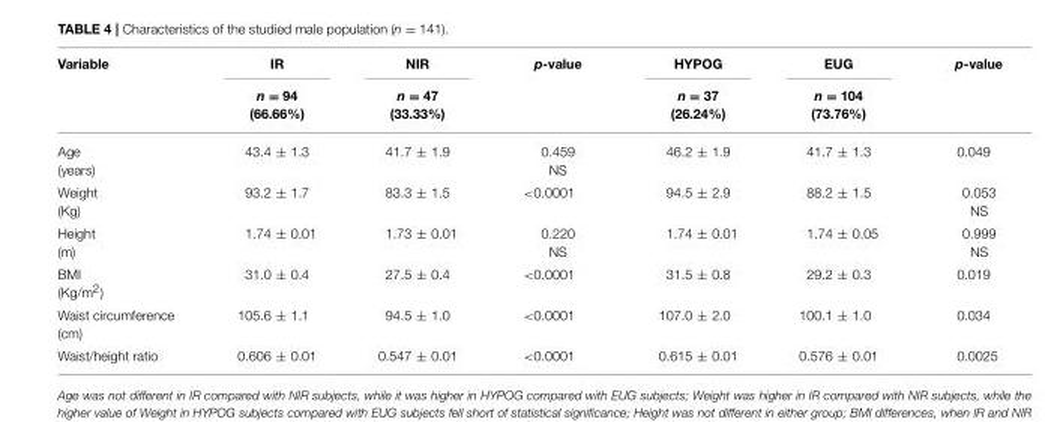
<table><thead><tr><td rowspan="2">Variable</td><td rowspan="2">IR n = 94 (66.66%)</td><td rowspan="2">NIR n = 47 (33.33%)</td><td rowspan="2">p-value</td><td rowspan="2">HYPOG n = 37 (26.24%)</td><td rowspan="2">EUG n = 104 (73.76%)</td><td rowspan="2">p-value</td></tr><tr></tr></thead><tbody><tr><td>Age (years)</td><td>43.4 ± 1.3</td><td>41.7 ± 1.9</td><td>0.459 NS</td><td>46.2 ± 1.9</td><td>41.7 ± 1.3</td><td>0.049</td></tr><tr><td>Weight (Kg)</td><td>93.2 ± 1.7</td><td>83.3 ± 1.5</td><td>&lt;0.0001</td><td>94.5 ± 2.9</td><td>88.2 ± 1.5</td><td>0.053 NS</td></tr><tr><td>Height (m)</td><td>1.74 ± 0.01</td><td>1.73 ± 0.01</td><td>0.220 NS</td><td>1.74 ± 0.01</td><td>1.74 ± 0.05</td><td>0.999 NS</td></tr><tr><td>BMI (Kg/m<sup>2</sup>)</td><td>31.0 ± 0.4</td><td>27.5 ± 0.4</td><td>&lt;0.0001</td><td>31.5 ± 0.8</td><td>29.2 ± 0.3</td><td>0.019</td></tr><tr><td>Waist circumference (cm)</td><td>105.6 ± 1.1</td><td>94.5 ± 1.0</td><td>&lt;0.0001</td><td>107.0 ± 2.0</td><td>100.1 ± 1.0</td><td>0.034</td></tr><tr><td>Waist/height ratio</td><td>0.606 ± 0.01</td><td>0.547 ± 0.01</td><td>&lt;0.0001</td><td>0.615 ± 0.01</td><td>0.576 ± 0.01</td><td>0.0025</td></tr></tbody></table>